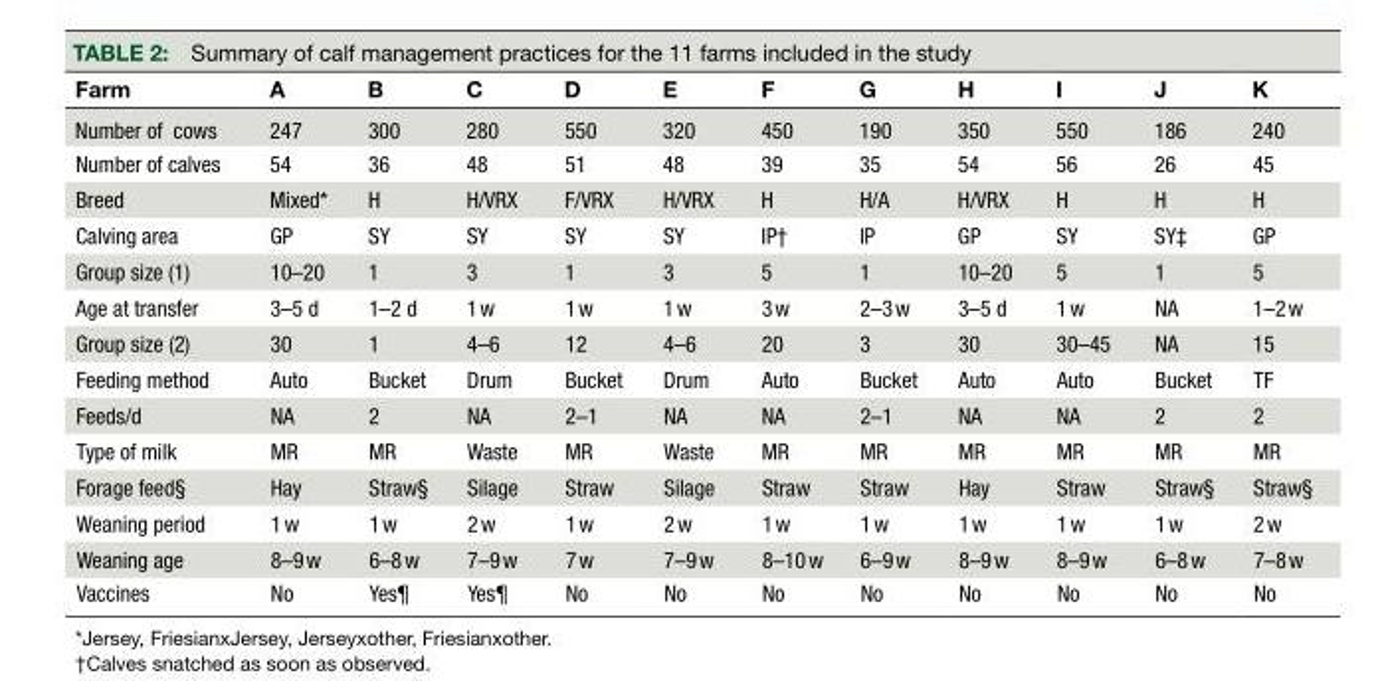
<table><thead><tr><td>Farm</td><td>A</td><td>B</td><td>C</td><td>D</td><td>E</td><td>F</td><td>G</td><td>H</td><td>I</td><td>J</td><td>K</td></tr></thead><tbody><tr><td>Number of cows</td><td>247</td><td>300</td><td>280</td><td>550</td><td>320</td><td>450</td><td>190</td><td>350</td><td>550</td><td>186</td><td>240</td></tr><tr><td>Number of calves</td><td>54</td><td>36</td><td>48</td><td>51</td><td>48</td><td>39</td><td>35</td><td>54</td><td>56</td><td>26</td><td>45</td></tr><tr><td>Breed</td><td>Mixed*</td><td>H</td><td>H/VRX</td><td>F/VRX</td><td>H/VRX</td><td>H</td><td>H/A</td><td>H/VRX</td><td>H</td><td>H</td><td>H</td></tr><tr><td>Calving area</td><td>GP</td><td>SY</td><td>SY</td><td>SY</td><td>SY</td><td>IP†</td><td>IP</td><td>GP</td><td>SY</td><td>SY‡</td><td>GP</td></tr><tr><td>Group size (1)</td><td>10–20</td><td>1</td><td>3</td><td>1</td><td>3</td><td>5</td><td>1</td><td>10–20</td><td>5</td><td>1</td><td>5</td></tr><tr><td>Age at transfer</td><td>3–5 d</td><td>1–2 d</td><td>1 w</td><td>1 w</td><td>1 w</td><td>3 w</td><td>2–3 w</td><td>3–5 d</td><td>1 w</td><td>NA</td><td>1–2 w</td></tr><tr><td>Group size (2)</td><td>30</td><td>1</td><td>4–6</td><td>12</td><td>4–6</td><td>20</td><td>3</td><td>30</td><td>30–45</td><td>NA</td><td>15</td></tr><tr><td>Feeding method</td><td>Auto</td><td>Bucket</td><td>Drum</td><td>Bucket</td><td>Drum</td><td>Auto</td><td>Bucket</td><td>Auto</td><td>Auto</td><td>Bucket</td><td>TF</td></tr><tr><td>Feeds/d</td><td>NA</td><td>2</td><td>NA</td><td>2–1</td><td>NA</td><td>NA</td><td>2–1</td><td>NA</td><td>NA</td><td>2</td><td>2</td></tr><tr><td>Type of milk</td><td>MR</td><td>MR</td><td>Waste</td><td>MR</td><td>Waste</td><td>MR</td><td>MR</td><td>MR</td><td>MR</td><td>MR</td><td>MR</td></tr><tr><td>Forage feed§</td><td>Hay</td><td>Straw§</td><td>Silage</td><td>Straw</td><td>Silage</td><td>Straw</td><td>Straw</td><td>Hay</td><td>Straw</td><td>Straw§</td><td>Straw§</td></tr><tr><td>Weaning period</td><td>1 w</td><td>1 w</td><td>2 w</td><td>1 w</td><td>2 w</td><td>1 w</td><td>1 w</td><td>1 w</td><td>1 w</td><td>1 w</td><td>2 w</td></tr><tr><td>Weaning age</td><td>8–9 w</td><td>6–8 w</td><td>7–9 w</td><td>7 w</td><td>7–9 w</td><td>8–10 w</td><td>6–9 w</td><td>8–9 w</td><td>8–9 w</td><td>6–8 w</td><td>7–8 w</td></tr><tr><td>Vaccines</td><td>No</td><td>Yes¶</td><td>Yes¶</td><td>No</td><td>No</td><td>No</td><td>No</td><td>No</td><td>No</td><td>No</td><td>No</td></tr></tbody></table>